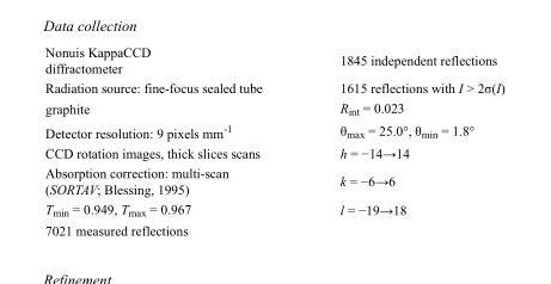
<table><tbody><tr><td>Nonuis KappaCCD diffractometer</td><td>1845 independent reflections</td></tr><tr><td>Radiation source: fine-focus sealed tube</td><td>1615 reflections with I &gt; 2σ(I)</td></tr><tr><td>graphite</td><td>R<sub>int</sub> = 0.023</td></tr><tr><td>Detector resolution: 9 pixels mm<sup>-1</sup></td><td>θ<sub>max</sub> = 25.0°, θ<sub>min</sub> = 1.8°</td></tr><tr><td>CCD rotation images, thick slices scans</td><td>h = −14→14</td></tr><tr><td>Absorption correction: multi-scan (SORTAV; Blessing, 1995)</td><td>k = −6→6</td></tr><tr><td>T<sub>min</sub> = 0.949, T<sub>max</sub> = 0.967</td><td>l = −19→18</td></tr><tr><td>7021 measured reflections</td><td></td></tr></tbody></table>